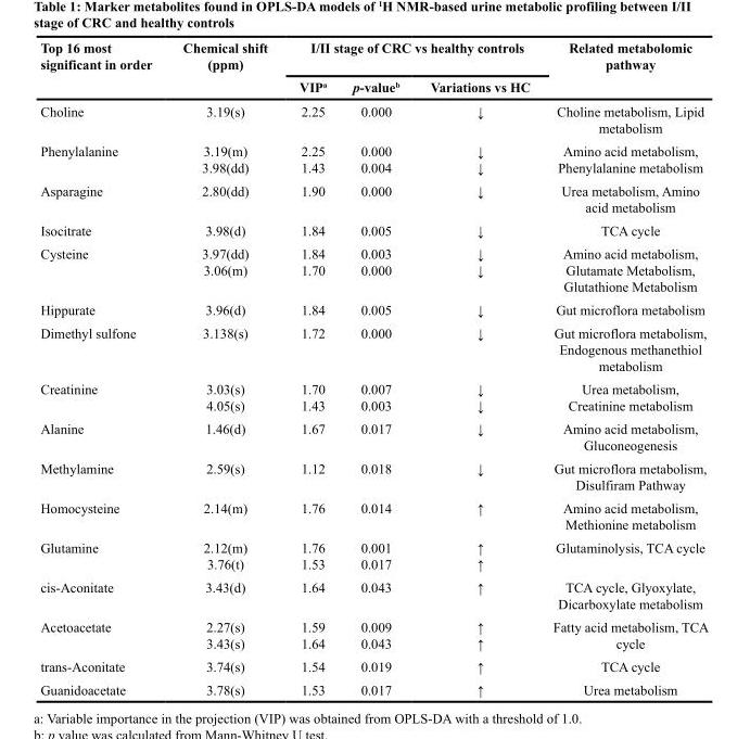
<table><thead><tr><td rowspan="2">Top 16 most significant in order</td><td rowspan="2">Chemical shift (ppm)</td><td colspan="3">I/II stage of CRC vs healthy controls</td><td rowspan="2">Related metabolomic pathway</td></tr><tr><td>VIP<sup>a</sup></td><td>p-value<sup>b</sup></td><td>Variations vs HC</td></tr></thead><tbody><tr><td>Choline</td><td>3.19(s)</td><td>2.25</td><td>0.000</td><td>↓</td><td>Choline metabolism, Lipid metabolism</td></tr><tr><td>Phenylalanine</td><td>3.19(m) 3.98(dd)</td><td>2.25 1.43</td><td>0.000 0.004</td><td>↓ ↓</td><td>Amino acid metabolism, Phenylalanine metabolism</td></tr><tr><td>Asparagine</td><td>2.80(dd)</td><td>1.90</td><td>0.000</td><td>↓</td><td>Urea metabolism, Amino acid metabolism</td></tr><tr><td>Isocitrate</td><td>3.98(d)</td><td>1.84</td><td>0.005</td><td>↓</td><td>TCA cycle</td></tr><tr><td>Cysteine</td><td>3.97(dd) 3.06(m)</td><td>1.84 1.70</td><td>0.003 0.000</td><td>↓ ↓</td><td>Amino acid metabolism, Glutamate Metabolism, Glutathione Metabolism</td></tr><tr><td>Hippurate</td><td>3.96(d)</td><td>1.84</td><td>0.005</td><td>↓</td><td>Gut microflora metabolism</td></tr><tr><td>Dimethyl sulfone</td><td>3.138(s)</td><td>1.72</td><td>0.000</td><td>↓</td><td>Gut microflora metabolism, Endogenous methanethiol metabolism</td></tr><tr><td>Creatinine</td><td>3.03(s) 4.05(s)</td><td>1.70 1.43</td><td>0.007 0.003</td><td>↓ ↓</td><td>Urea metabolism, Creatinine metabolism</td></tr><tr><td>Alanine</td><td>1.46(d)</td><td>1.67</td><td>0.017</td><td>↓</td><td>Amino acid metabolism, Gluconeogenesis</td></tr><tr><td>Methylamine</td><td>2.59(s)</td><td>1.12</td><td>0.018</td><td>↓</td><td>Gut microflora metabolism, Disulfiram Pathway</td></tr><tr><td>Homocysteine</td><td>2.14(m)</td><td>1.76</td><td>0.014</td><td>↑</td><td>Amino acid metabolism, Methionine metabolism</td></tr><tr><td>Glutamine</td><td>2.12(m) 3.76(t)</td><td>1.76 1.53</td><td>0.001 0.017</td><td>↑ ↑</td><td>Glutaminolysis, TCA cycle</td></tr><tr><td>cis-Aconitate</td><td>3.43(d)</td><td>1.64</td><td>0.043</td><td>↑</td><td>TCA cycle, Glyoxylate, Dicarboxylate metabolism</td></tr><tr><td>Acetoacetate</td><td>2.27(s) 3.43(s)</td><td>1.59 1.64</td><td>0.009 0.043</td><td>↑ ↑</td><td>Fatty acid metabolism, TCA cycle</td></tr><tr><td>trans-Aconitate</td><td>3.74(s)</td><td>1.54</td><td>0.019</td><td>↑</td><td>TCA cycle</td></tr><tr><td>Guanidoacetate</td><td>3.78(s)</td><td>1.53</td><td>0.017</td><td>↑</td><td>Urea metabolism</td></tr></tbody></table>